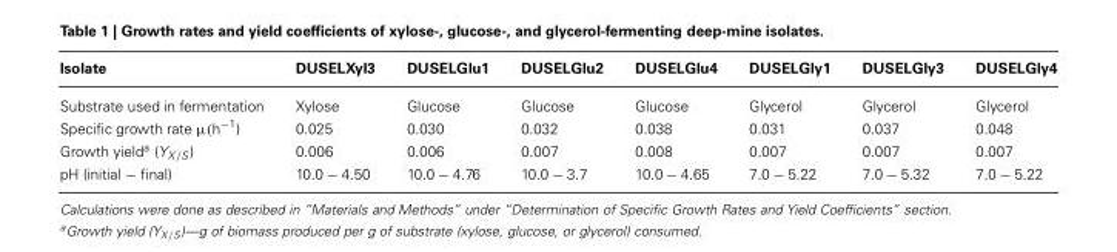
<table><thead><tr><td>Isolate</td><td>DUSELXyl3</td><td>DUSELGlu1</td><td>DUSELGlu2</td><td>DUSELGlu4</td><td>DUSELGly1</td><td>DUSELGly3</td><td>DUSELGly4</td></tr></thead><tbody><tr><td>Substrate used in fermentation</td><td>Xylose</td><td>Glucose</td><td>Glucose</td><td>Glucose</td><td>Glycerol</td><td>Glycerol</td><td>Glycerol</td></tr><tr><td>Specific growth rate µ(h<sup>−1</sup>)</td><td>0.025</td><td>0.030</td><td>0.032</td><td>0.038</td><td>0.031</td><td>0.037</td><td>0.048</td></tr><tr><td>Growth yield<sup>a</sup> (Y<sub>X/S</sub>)</td><td>0.006</td><td>0.006</td><td>0.007</td><td>0.008</td><td>0.007</td><td>0.007</td><td>0.007</td></tr><tr><td>pH (initial − final)</td><td>10.0 − 4.50</td><td>10.0 − 4.76</td><td>10.0 − 3.7</td><td>10.0 − 4.65</td><td>7.0 − 5.22</td><td>7.0 − 5.32</td><td>7.0 − 5.22</td></tr></tbody></table>